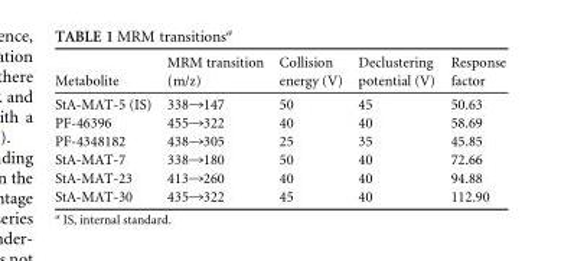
<table><thead><tr><td>Metabolite</td><td>MRM transition (m/z)</td><td>Collision energy (V)</td><td>Declustering potential (V)</td><td>Response factor</td></tr></thead><tbody><tr><td>StA-MAT-5 (IS)</td><td>338→147</td><td>50</td><td>45</td><td>50.63</td></tr><tr><td>PF-46396</td><td>455→322</td><td>40</td><td>40</td><td>58.69</td></tr><tr><td>PF-4348182</td><td>438→305</td><td>25</td><td>35</td><td>45.85</td></tr><tr><td>StA-MAT-7</td><td>338→180</td><td>50</td><td>40</td><td>72.66</td></tr><tr><td>StA-MAT-23</td><td>413→260</td><td>40</td><td>40</td><td>94.88</td></tr><tr><td>StA-MAT-30</td><td>435→322</td><td>45</td><td>40</td><td>112.90</td></tr></tbody></table>